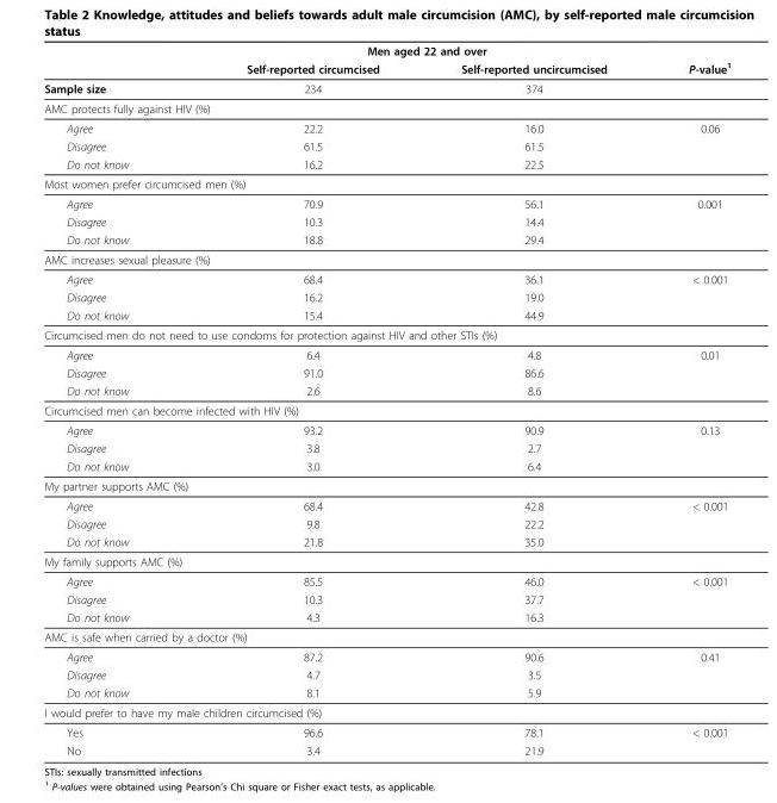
<table><thead><tr><td rowspan="2"></td><td colspan="2">Men aged 22 and over</td><td rowspan="2">P-value1</td></tr><tr><td>Self-reported circumcised</td><td>Self-reported uncircumcised</td></tr></thead><tbody><tr><td>Sample size</td><td>234</td><td>374</td><td></td></tr><tr><td colspan="4">AMC protects fully against HIV (%)</td></tr><tr><td>Agree</td><td>22.2</td><td>16.0</td><td>0.06</td></tr><tr><td>Disagree</td><td>61.5</td><td>61.5</td><td></td></tr><tr><td>Do not know</td><td>16.2</td><td>22.5</td><td></td></tr><tr><td colspan="4">Most women prefer circumcised men (%)</td></tr><tr><td>Agree</td><td>70.9</td><td>56.1</td><td>0.001</td></tr><tr><td>Disagree</td><td>10.3</td><td>14.4</td><td></td></tr><tr><td>Do not know</td><td>18.8</td><td>29.4</td><td></td></tr><tr><td colspan="4">AMC increases sexual pleasure (%)</td></tr><tr><td>Agree</td><td>68.4</td><td>36.1</td><td>&lt; 0.001</td></tr><tr><td>Disagree</td><td>16.2</td><td>19.0</td><td></td></tr><tr><td>Do not know</td><td>15.4</td><td>44.9</td><td></td></tr><tr><td colspan="4">Circumcised men do not need to use condoms for protection against HIV and other STIs (%)</td></tr><tr><td>Agree</td><td>6.4</td><td>4.8</td><td>0.01</td></tr><tr><td>Disagree</td><td>91.0</td><td>86.6</td><td></td></tr><tr><td>Do not know</td><td>2.6</td><td>8.6</td><td></td></tr><tr><td colspan="4">Circumcised men can become infected with HIV (%)</td></tr><tr><td>Agree</td><td>93.2</td><td>90.9</td><td>0.13</td></tr><tr><td>Disagree</td><td>3.8</td><td>2.7</td><td></td></tr><tr><td>Do not know</td><td>3.0</td><td>6.4</td><td></td></tr><tr><td colspan="4">My partner supports AMC (%)</td></tr><tr><td>Agree</td><td>68.4</td><td>42.8</td><td>&lt; 0.001</td></tr><tr><td>Disagree</td><td>9.8</td><td>22.2</td><td></td></tr><tr><td>Do not know</td><td>21.8</td><td>35.0</td><td></td></tr><tr><td colspan="4">My family supports AMC (%)</td></tr><tr><td>Agree</td><td>85.5</td><td>46.0</td><td>&lt; 0.001</td></tr><tr><td>Disagree</td><td>10.3</td><td>37.7</td><td></td></tr><tr><td>Do not know</td><td>4.3</td><td>16.3</td><td></td></tr><tr><td colspan="4">AMC is safe when carried by a doctor (%)</td></tr><tr><td>Agree</td><td>87.2</td><td>90.6</td><td>0.41</td></tr><tr><td>Disagree</td><td>4.7</td><td>3.5</td><td></td></tr><tr><td>Do not know</td><td>8.1</td><td>5.9</td><td></td></tr><tr><td colspan="4">I would prefer to have my male children circumcised (%)</td></tr><tr><td>Yes</td><td>96.6</td><td>78.1</td><td>&lt; 0.001</td></tr><tr><td>No</td><td>3.4</td><td>21.9</td><td></td></tr></tbody></table>